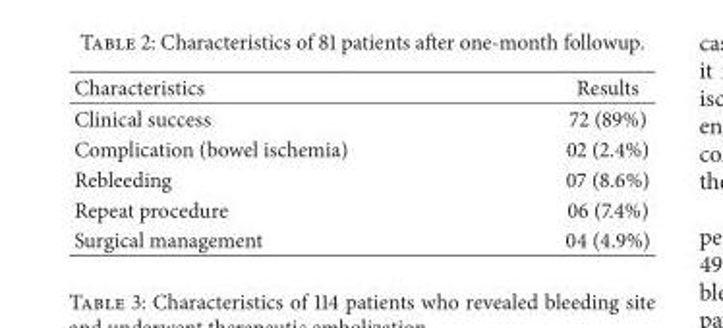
<table><thead><tr><td>Characteristics</td><td>Results</td></tr></thead><tbody><tr><td>Clinical success</td><td>72 (89%)</td></tr><tr><td>Complication (bowel ischemia)</td><td>02 (2.4%)</td></tr><tr><td>Rebleeding</td><td>07 (8.6%)</td></tr><tr><td>Repeat procedure</td><td>06 (7.4%)</td></tr><tr><td>Surgical management</td><td>04 (4.9%)</td></tr></tbody></table>